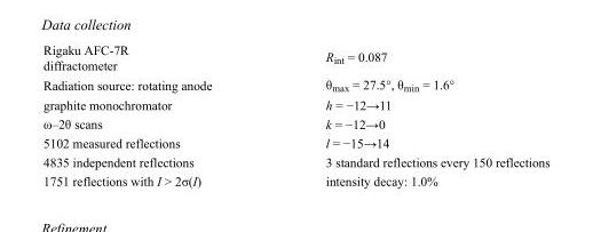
<table><tbody><tr><td>Rigaku AFC-7R diffractometer</td><td>R<sub>int</sub> = 0.087</td></tr><tr><td>Radiation source: rotating anode</td><td>θ<sub>max</sub> = 27.5°, θ<sub>min</sub> = 1.6°</td></tr><tr><td>graphite monochromator</td><td>h = −12→11</td></tr><tr><td>ω–2θ scans</td><td>k = −12→0</td></tr><tr><td>5102 measured reflections</td><td>l = −15→14</td></tr><tr><td>4835 independent reflections</td><td>3 standard reflections every 150 reflections</td></tr><tr><td>1751 reflections with I &gt; 2σ(I)</td><td>intensity decay: 1.0%</td></tr></tbody></table>